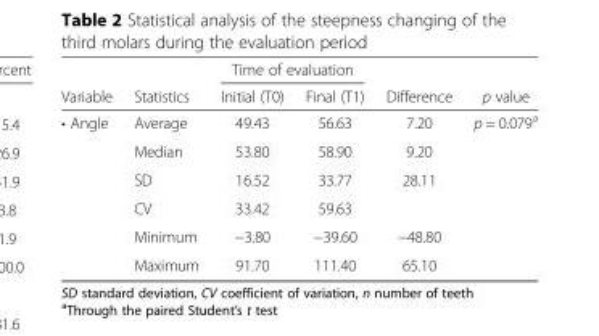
<table><thead><tr><td rowspan="2">Variable</td><td rowspan="2">Statistics</td><td colspan="2">Time of evaluation</td><td rowspan="2">Difference</td><td rowspan="2">p value</td></tr><tr><td>Initial (T0)</td><td>Final (T1)</td></tr></thead><tbody><tr><td rowspan="6">• Angle</td><td>Average</td><td>49.43</td><td>56.63</td><td>7.20</td><td>p = 0.079<sup>a</sup></td></tr><tr><td>Median</td><td>53.80</td><td>58.90</td><td>9.20</td><td></td></tr><tr><td>SD</td><td>16.52</td><td>33.77</td><td>28.11</td><td></td></tr><tr><td>CV</td><td>33.42</td><td>59.63</td><td></td><td></td></tr><tr><td>Minimum</td><td>−3.80</td><td>−39.60</td><td>−48.80</td><td></td></tr><tr><td>Maximum</td><td>91.70</td><td>111.40</td><td>65.10</td><td></td></tr></tbody></table>